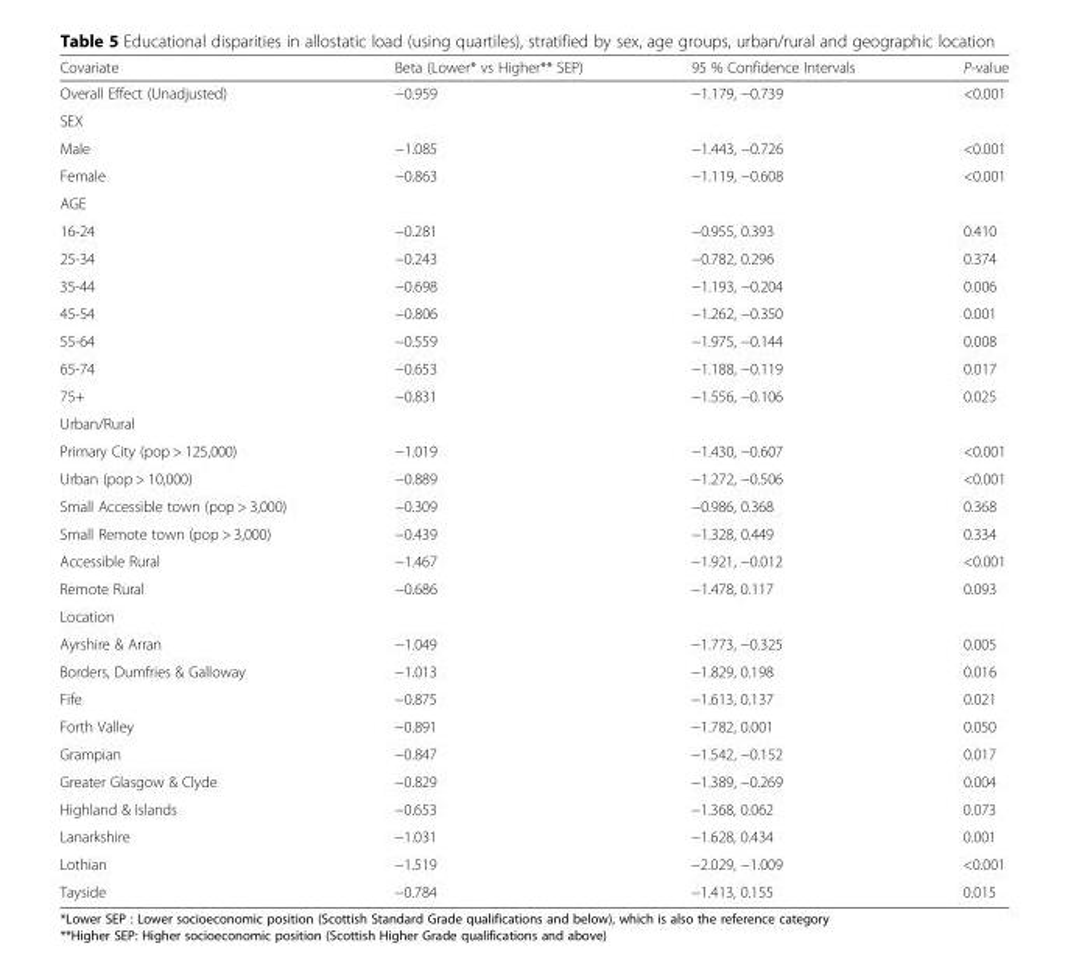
<table><thead><tr><td>Covariate</td><td>Beta (Lower* vs Higher** SEP)</td><td>95 % Confidence Intervals</td><td>P-value</td></tr></thead><tbody><tr><td>Overall Effect (Unadjusted)</td><td>−0.959</td><td>−1.179, −0.739</td><td>&lt;0.001</td></tr><tr><td colspan="4">SEX</td></tr><tr><td>Male</td><td>−1.085</td><td>−1.443, −0.726</td><td>&lt;0.001</td></tr><tr><td>Female</td><td>−0.863</td><td>−1.119, −0.608</td><td>&lt;0.001</td></tr><tr><td colspan="4">AGE</td></tr><tr><td>16-24</td><td>−0.281</td><td>−0.955, 0.393</td><td>0.410</td></tr><tr><td>25-34</td><td>−0.243</td><td>−0.782, 0.296</td><td>0.374</td></tr><tr><td>35-44</td><td>−0.698</td><td>−1.193, −0.204</td><td>0.006</td></tr><tr><td>45-54</td><td>−0.806</td><td>−1.262, −0.350</td><td>0.001</td></tr><tr><td>55-64</td><td>−0.559</td><td>−1.975, −0.144</td><td>0.008</td></tr><tr><td>65-74</td><td>−0.653</td><td>−1.188, −0.119</td><td>0.017</td></tr><tr><td>75+</td><td>−0.831</td><td>−1.556, −0.106</td><td>0.025</td></tr><tr><td colspan="4">Urban/Rural</td></tr><tr><td>Primary City (pop &gt; 125,000)</td><td>−1.019</td><td>−1.430, −0.607</td><td>&lt;0.001</td></tr><tr><td>Urban (pop &gt; 10,000)</td><td>−0.889</td><td>−1.272, −0.506</td><td>&lt;0.001</td></tr><tr><td>Small Accessible town (pop &gt; 3,000)</td><td>−0.309</td><td>−0.986, 0.368</td><td>0.368</td></tr><tr><td>Small Remote town (pop &gt; 3,000)</td><td>−0.439</td><td>−1.328, 0.449</td><td>0.334</td></tr><tr><td>Accessible Rural</td><td>−1.467</td><td>−1.921, −0.012</td><td>&lt;0.001</td></tr><tr><td>Remote Rural</td><td>−0.686</td><td>−1.478, 0.117</td><td>0.093</td></tr><tr><td colspan="4">Location</td></tr><tr><td>Ayrshire &amp; Arran</td><td>−1.049</td><td>−1.773, −0.325</td><td>0.005</td></tr><tr><td>Borders, Dumfries &amp; Galloway</td><td>−1.013</td><td>−1.829, 0.198</td><td>0.016</td></tr><tr><td>Fife</td><td>−0.875</td><td>−1.613, 0.137</td><td>0.021</td></tr><tr><td>Forth Valley</td><td>−0.891</td><td>−1.782, 0.001</td><td>0.050</td></tr><tr><td>Grampian</td><td>−0.847</td><td>−1.542, −0.152</td><td>0.017</td></tr><tr><td>Greater Glasgow &amp; Clyde</td><td>−0.829</td><td>−1.389, −0.269</td><td>0.004</td></tr><tr><td>Highland &amp; Islands</td><td>−0.653</td><td>−1.368, 0.062</td><td>0.073</td></tr><tr><td>Lanarkshire</td><td>−1.031</td><td>−1.628, 0.434</td><td>0.001</td></tr><tr><td>Lothian</td><td>−1.519</td><td>−2.029, −1.009</td><td>&lt;0.001</td></tr><tr><td>Tayside</td><td>−0.784</td><td>−1.413, 0.155</td><td>0.015</td></tr></tbody></table>